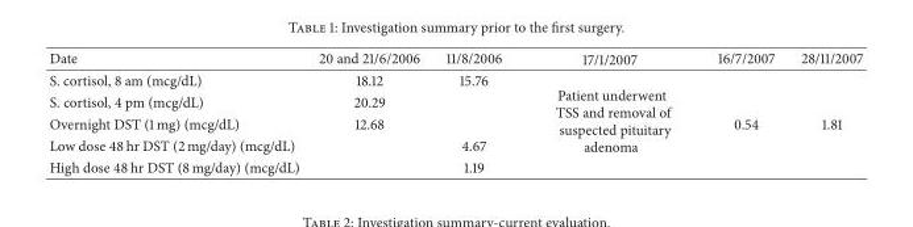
<table><thead><tr><td>Date</td><td>20 and 21/6/2006</td><td>11/8/2006</td><td>17/1/2007</td><td>16/7/2007</td><td>28/11/2007</td></tr></thead><tbody><tr><td>S. cortisol, 8 am (mcg/dL)</td><td>18.12</td><td>15.76</td><td rowspan="5">Patient underwent TSS and removal of suspected pituitary adenoma</td><td></td><td></td></tr><tr><td>S. cortisol, 4 pm (mcg/dL)</td><td>20.29</td><td></td><td></td><td></td></tr><tr><td>Overnight DST (1 mg) (mcg/dL)</td><td>12.68</td><td></td><td>0.54</td><td>1.81</td></tr><tr><td>Low dose 48 hr DST (2 mg/day) (mcg/dL)</td><td></td><td>4.67</td><td></td><td></td></tr><tr><td>High dose 48 hr DST (8 mg/day) (mcg/dL)</td><td></td><td>1.19</td><td></td><td></td></tr></tbody></table>